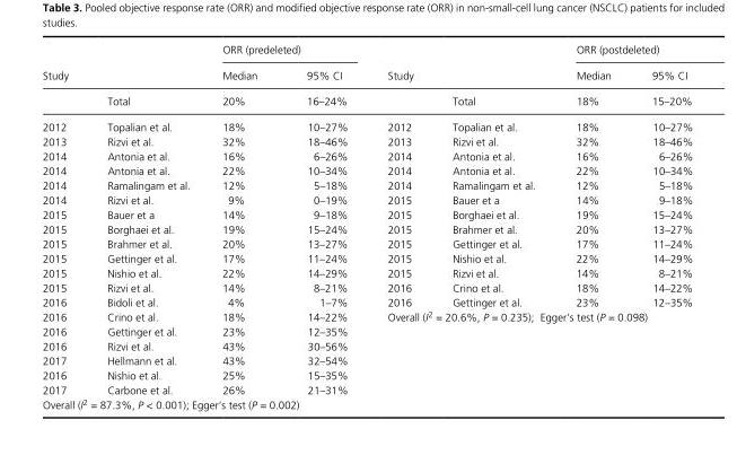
<table><thead><tr><td rowspan="2" colspan="2">Study</td><td colspan="2">ORR (predeleted)</td><td rowspan="2" colspan="2">Study</td><td colspan="2">ORR (postdeleted)</td></tr><tr><td rowspan="2">Median 20%</td><td rowspan="2">95% CI 16–24%</td><td rowspan="2">Median 18%</td><td rowspan="2">95% CI 15–20%</td></tr><tr><td></td><td>Total</td><td></td><td>Total</td></tr></thead><tbody><tr><td>2012</td><td>Topalian et al.</td><td>18%</td><td>10–27%</td><td>2012</td><td>Topalian et al.</td><td>18%</td><td>10–27%</td></tr><tr><td>2013</td><td>Rizvi et al.</td><td>32%</td><td>18–46%</td><td>2013</td><td>Rizvi et al.</td><td>32%</td><td>18–46%</td></tr><tr><td>2014</td><td>Antonia et al.</td><td>16%</td><td>6–26%</td><td>2014</td><td>Antonia et al.</td><td>16%</td><td>6–26%</td></tr><tr><td>2014</td><td>Antonia et al.</td><td>22%</td><td>10–34%</td><td>2014</td><td>Antonia et al.</td><td>22%</td><td>10–34%</td></tr><tr><td>2014</td><td>Ramalingam et al.</td><td>12%</td><td>5–18%</td><td>2014</td><td>Ramalingam et al.</td><td>12%</td><td>5–18%</td></tr><tr><td>2014</td><td>Rizvi et al.</td><td>9%</td><td>0–19%</td><td>2015</td><td>Bauer et a</td><td>14%</td><td>9–18%</td></tr><tr><td>2015</td><td>Bauer et a</td><td>14%</td><td>9–18%</td><td>2015</td><td>Borghaei et al.</td><td>19%</td><td>15–24%</td></tr><tr><td>2015</td><td>Borghaei et al.</td><td>19%</td><td>15–24%</td><td>2015</td><td>Brahmer et al.</td><td>20%</td><td>13–27%</td></tr><tr><td>2015</td><td>Brahmer et al.</td><td>20%</td><td>13–27%</td><td>2015</td><td>Gettinger et al.</td><td>17%</td><td>11–24%</td></tr><tr><td>2015</td><td>Gettinger et al.</td><td>17%</td><td>11–24%</td><td>2015</td><td>Nishio et al.</td><td>22%</td><td>14–29%</td></tr><tr><td>2015</td><td>Nishio et al.</td><td>22%</td><td>14–29%</td><td>2015</td><td>Rizvi et al.</td><td>14%</td><td>8–21%</td></tr><tr><td>2015</td><td>Rizvi et al.</td><td>14%</td><td>8–21%</td><td>2016</td><td>Crino et al.</td><td>18%</td><td>14–22%</td></tr><tr><td>2016</td><td>Bidoli et al.</td><td>4%</td><td>1–7%</td><td>2016</td><td>Gettinger et al.</td><td>23%</td><td>12–35%</td></tr><tr><td>2016</td><td>Crino et al.</td><td>18%</td><td>14–22%</td><td colspan="4">Overall (I<sup>2</sup> = 20.6%, P = 0.235); Egger’s test (P = 0.098)</td></tr><tr><td>2016</td><td>Gettinger et al.</td><td>23%</td><td>12–35%</td><td></td><td></td><td></td><td></td></tr><tr><td>2016</td><td>Rizvi et al.</td><td>43%</td><td>30–56%</td><td></td><td></td><td></td><td></td></tr><tr><td>2017</td><td>Hellmann et al.</td><td>43%</td><td>32–54%</td><td></td><td></td><td></td><td></td></tr><tr><td>2016</td><td>Nishio et al.</td><td>25%</td><td>15–35%</td><td></td><td></td><td></td><td></td></tr><tr><td>2017</td><td>Carbone et al.</td><td>26%</td><td>21–31%</td><td></td><td></td><td></td><td></td></tr><tr><td colspan="4">Overall (I<sup>2</sup> = 87.3%, P &lt; 0.001); Egger’s test (P = 0.002)</td><td></td><td></td><td></td><td></td></tr></tbody></table>